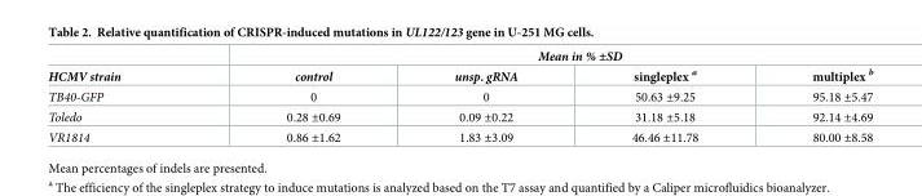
<table><thead><tr><td rowspan="2">HCMV strain</td><td colspan="4">Mean in % ±SD</td></tr><tr><td>control</td><td>unsp. gRNA</td><td>singleplex <sup>a</sup></td><td>multiplex <sup>b</sup></td></tr></thead><tbody><tr><td>TB40-GFP</td><td>0</td><td>0</td><td>50.63 ±9.25</td><td>95.18 ±5.47</td></tr><tr><td>Toledo</td><td>0.28 ±0.69</td><td>0.09 ±0.22</td><td>31.18 ±5.18</td><td>92.14 ±4.69</td></tr><tr><td>VR1814</td><td>0.86 ±1.62</td><td>1.83 ±3.09</td><td>46.46 ±11.78</td><td>80.00 ±8.58</td></tr></tbody></table>